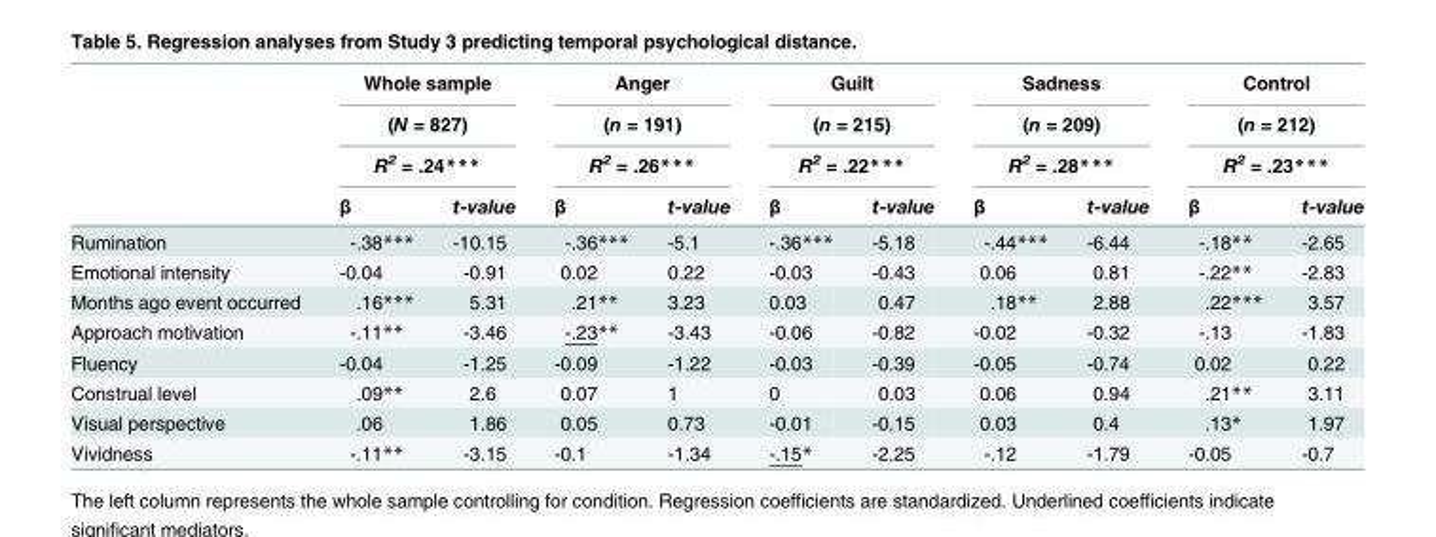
<table><thead><tr><td rowspan="4"></td><td rowspan="3" colspan="2">Whole sample (N = 827) R<sup>2</sup> = .24***</td><td rowspan="3" colspan="2">Anger (n = 191) R<sup>2</sup> = .26***</td><td rowspan="3" colspan="2">Guilt (n = 215) R<sup>2</sup> = .22***</td><td rowspan="3" colspan="2">Sadness (n = 209) R<sup>2</sup> = .28***</td><td rowspan="3" colspan="2">Control (n = 212) R<sup>2</sup> = .23***</td></tr><tr></tr><tr></tr><tr><td>β</td><td>t-value</td><td>β</td><td>t-value</td><td>β</td><td>t-value</td><td>β</td><td>t-value</td><td>β</td><td>t-value</td></tr></thead><tbody><tr><td>Rumination</td><td>-.38***</td><td>-10.15</td><td>-.36***</td><td>-5.1</td><td>-.36***</td><td>-5.18</td><td>-.44***</td><td>-6.44</td><td>-.18**</td><td>-2.65</td></tr><tr><td>Emotional intensity</td><td>-0.04</td><td>-0.91</td><td>0.02</td><td>0.22</td><td>-0.03</td><td>-0.43</td><td>0.06</td><td>0.81</td><td>-.22**</td><td>-2.83</td></tr><tr><td>Months ago event occurred</td><td>.16***</td><td>5.31</td><td>.21**</td><td>3.23</td><td>0.03</td><td>0.47</td><td>.18**</td><td>2.88</td><td>.22***</td><td>3.57</td></tr><tr><td>Approach motivation</td><td>-.11**</td><td>-3.46</td><td>-.23**</td><td>-3.43</td><td>-0.06</td><td>-0.82</td><td>-0.02</td><td>-0.32</td><td>-.13ǂ</td><td>-1.83</td></tr><tr><td>Fluency</td><td>-0.04</td><td>-1.25</td><td>-0.09</td><td>-1.22</td><td>-0.03</td><td>-0.39</td><td>-0.05</td><td>-0.74</td><td>0.02</td><td>0.22</td></tr><tr><td>Construal level</td><td>.09**</td><td>2.6</td><td>0.07</td><td>1</td><td>0</td><td>0.03</td><td>0.06</td><td>0.94</td><td>.21**</td><td>3.11</td></tr><tr><td>Visual perspective</td><td>.06ǂ</td><td>1.86</td><td>0.05</td><td>0.73</td><td>-0.01</td><td>-0.15</td><td>0.03</td><td>0.4</td><td>.13*</td><td>1.97</td></tr><tr><td>Vividness</td><td>-.11**</td><td>-3.15</td><td>-0.1</td><td>-1.34</td><td>-.15*</td><td>-2.25</td><td>-.12ǂ</td><td>-1.79</td><td>-0.05</td><td>-0.7</td></tr></tbody></table>